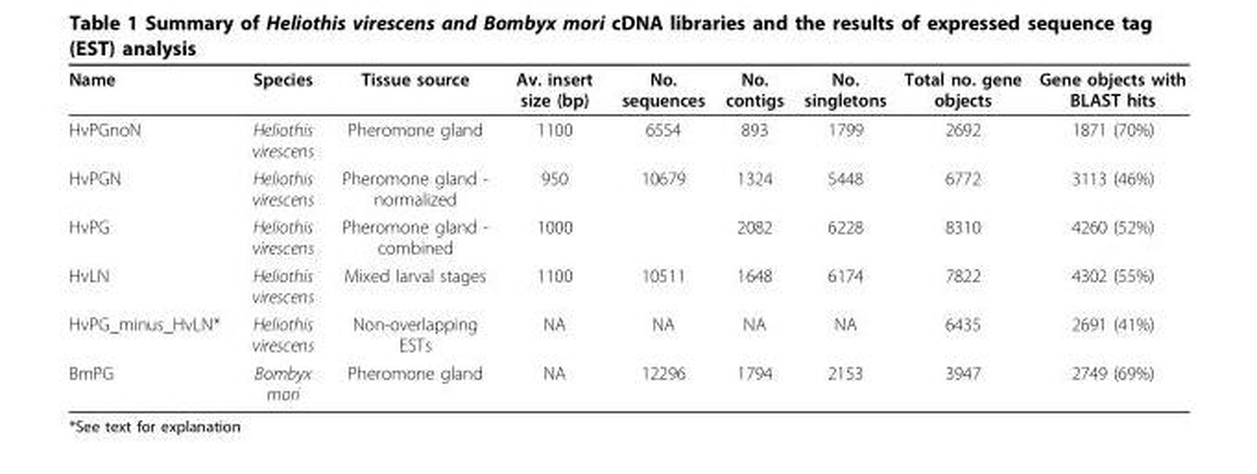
<table><thead><tr><td>Name</td><td>Species</td><td>Tissue source</td><td>Av. insert size (bp)</td><td>No. sequences</td><td>No. contigs</td><td>No. singletons</td><td>Total no. gene objects</td><td>Gene objects with BLAST hits</td></tr></thead><tbody><tr><td>HvPGnoN</td><td>Heliothis virescens</td><td>Pheromone gland</td><td>1100</td><td>6554</td><td>893</td><td>1799</td><td>2692</td><td>1871 (70%)</td></tr><tr><td>HvPGN</td><td>Heliothis virescens</td><td>Pheromone gland - normalized</td><td>950</td><td>10679</td><td>1324</td><td>5448</td><td>6772</td><td>3113 (46%)</td></tr><tr><td>HvPG</td><td>Heliothis virescens</td><td>Pheromone gland - combined</td><td>1000</td><td></td><td>2082</td><td>6228</td><td>8310</td><td>4260 (52%)</td></tr><tr><td>HvLN</td><td>Heliothis virescens</td><td>Mixed larval stages</td><td>1100</td><td>10511</td><td>1648</td><td>6174</td><td>7822</td><td>4302 (55%)</td></tr><tr><td>HvPG_minus_HvLN*</td><td>Heliothis virescens</td><td>Non-overlapping ESTs</td><td>NA</td><td>NA</td><td>NA</td><td>NA</td><td>6435</td><td>2691 (41%)</td></tr><tr><td>BmPG</td><td>Bombyx mori</td><td>Pheromone gland</td><td>NA</td><td>12296</td><td>1794</td><td>2153</td><td>3947</td><td>2749 (69%)</td></tr></tbody></table>